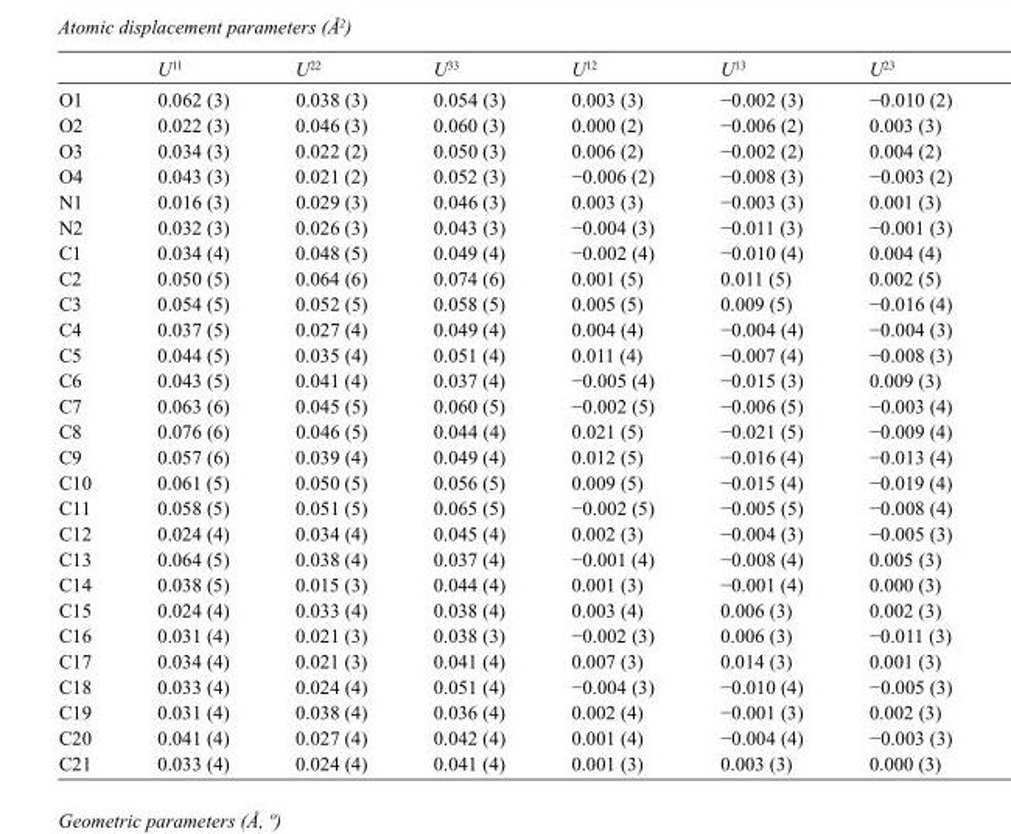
<table><thead><tr><td></td><td>U<sup>11</sup></td><td>U<sup>22</sup></td><td>U<sup>33</sup></td><td>U<sup>12</sup></td><td>U<sup>13</sup></td><td>U<sup>23</sup></td></tr></thead><tbody><tr><td>O1</td><td>0.062 (3)</td><td>0.038 (3)</td><td>0.054 (3)</td><td>0.003 (3)</td><td>−0.002 (3)</td><td>−0.010 (2)</td></tr><tr><td>O2</td><td>0.022 (3)</td><td>0.046 (3)</td><td>0.060 (3)</td><td>0.000 (2)</td><td>−0.006 (2)</td><td>0.003 (3)</td></tr><tr><td>O3</td><td>0.034 (3)</td><td>0.022 (2)</td><td>0.050 (3)</td><td>0.006 (2)</td><td>−0.002 (2)</td><td>0.004 (2)</td></tr><tr><td>O4</td><td>0.043 (3)</td><td>0.021 (2)</td><td>0.052 (3)</td><td>−0.006 (2)</td><td>−0.008 (3)</td><td>−0.003 (2)</td></tr><tr><td>N1</td><td>0.016 (3)</td><td>0.029 (3)</td><td>0.046 (3)</td><td>0.003 (3)</td><td>−0.003 (3)</td><td>0.001 (3)</td></tr><tr><td>N2</td><td>0.032 (3)</td><td>0.026 (3)</td><td>0.043 (3)</td><td>−0.004 (3)</td><td>−0.011 (3)</td><td>−0.001 (3)</td></tr><tr><td>C1</td><td>0.034 (4)</td><td>0.048 (5)</td><td>0.049 (4)</td><td>−0.002 (4)</td><td>−0.010 (4)</td><td>0.004 (4)</td></tr><tr><td>C2</td><td>0.050 (5)</td><td>0.064 (6)</td><td>0.074 (6)</td><td>0.001 (5)</td><td>0.011 (5)</td><td>0.002 (5)</td></tr><tr><td>C3</td><td>0.054 (5)</td><td>0.052 (5)</td><td>0.058 (5)</td><td>0.005 (5)</td><td>0.009 (5)</td><td>−0.016 (4)</td></tr><tr><td>C4</td><td>0.037 (5)</td><td>0.027 (4)</td><td>0.049 (4)</td><td>0.004 (4)</td><td>−0.004 (4)</td><td>−0.004 (3)</td></tr><tr><td>C5</td><td>0.044 (5)</td><td>0.035 (4)</td><td>0.051 (4)</td><td>0.011 (4)</td><td>−0.007 (4)</td><td>−0.008 (3)</td></tr><tr><td>C6</td><td>0.043 (5)</td><td>0.041 (4)</td><td>0.037 (4)</td><td>−0.005 (4)</td><td>−0.015 (3)</td><td>0.009 (3)</td></tr><tr><td>C7</td><td>0.063 (6)</td><td>0.045 (5)</td><td>0.060 (5)</td><td>−0.002 (5)</td><td>−0.006 (5)</td><td>−0.003 (4)</td></tr><tr><td>C8</td><td>0.076 (6)</td><td>0.046 (5)</td><td>0.044 (4)</td><td>0.021 (5)</td><td>−0.021 (5)</td><td>−0.009 (4)</td></tr><tr><td>C9</td><td>0.057 (6)</td><td>0.039 (4)</td><td>0.049 (4)</td><td>0.012 (5)</td><td>−0.016 (4)</td><td>−0.013 (4)</td></tr><tr><td>C10</td><td>0.061 (5)</td><td>0.050 (5)</td><td>0.056 (5)</td><td>0.009 (5)</td><td>−0.015 (4)</td><td>−0.019 (4)</td></tr><tr><td>C11</td><td>0.058 (5)</td><td>0.051 (5)</td><td>0.065 (5)</td><td>−0.002 (5)</td><td>−0.005 (5)</td><td>−0.008 (4)</td></tr><tr><td>C12</td><td>0.024 (4)</td><td>0.034 (4)</td><td>0.045 (4)</td><td>0.002 (3)</td><td>−0.004 (3)</td><td>−0.005 (3)</td></tr><tr><td>C13</td><td>0.064 (5)</td><td>0.038 (4)</td><td>0.037 (4)</td><td>−0.001 (4)</td><td>−0.008 (4)</td><td>0.005 (3)</td></tr><tr><td>C14</td><td>0.038 (5)</td><td>0.015 (3)</td><td>0.044 (4)</td><td>0.001 (3)</td><td>−0.001 (4)</td><td>0.000 (3)</td></tr><tr><td>C15</td><td>0.024 (4)</td><td>0.033 (4)</td><td>0.038 (4)</td><td>0.003 (4)</td><td>0.006 (3)</td><td>0.002 (3)</td></tr><tr><td>C16</td><td>0.031 (4)</td><td>0.021 (3)</td><td>0.038 (3)</td><td>−0.002 (3)</td><td>0.006 (3)</td><td>−0.011 (3)</td></tr><tr><td>C17</td><td>0.034 (4)</td><td>0.021 (3)</td><td>0.041 (4)</td><td>0.007 (3)</td><td>0.014 (3)</td><td>0.001 (3)</td></tr><tr><td>C18</td><td>0.033 (4)</td><td>0.024 (4)</td><td>0.051 (4)</td><td>−0.004 (3)</td><td>−0.010 (4)</td><td>−0.005 (3)</td></tr><tr><td>C19</td><td>0.031 (4)</td><td>0.038 (4)</td><td>0.036 (4)</td><td>0.002 (4)</td><td>−0.001 (3)</td><td>0.002 (3)</td></tr><tr><td>C20</td><td>0.041 (4)</td><td>0.027 (4)</td><td>0.042 (4)</td><td>0.001 (4)</td><td>−0.004 (4)</td><td>−0.003 (3)</td></tr><tr><td>C21</td><td>0.033 (4)</td><td>0.024 (4)</td><td>0.041 (4)</td><td>0.001 (3)</td><td>0.003 (3)</td><td>0.000 (3)</td></tr></tbody></table>